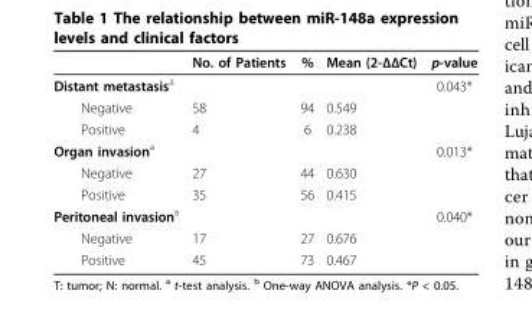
<table><thead><tr><td></td><td>No. of Patients</td><td>%</td><td>Mean (2-ΔΔCt)</td><td>p-value</td></tr></thead><tbody><tr><td>Distant metastasis<sup>a</sup></td><td></td><td></td><td></td><td>0.043*</td></tr><tr><td>Negative</td><td>58</td><td>94</td><td>0.549</td><td></td></tr><tr><td>Positive</td><td>4</td><td>6</td><td>0.238</td><td></td></tr><tr><td>Organ invasion<sup>a</sup></td><td></td><td></td><td></td><td>0.013*</td></tr><tr><td>Negative</td><td>27</td><td>44</td><td>0.630</td><td></td></tr><tr><td>Positive</td><td>35</td><td>56</td><td>0.415</td><td></td></tr><tr><td>Peritoneal invasion<sup>a</sup></td><td></td><td></td><td></td><td>0.040*</td></tr><tr><td>Negative</td><td>17</td><td>27</td><td>0.676</td><td></td></tr><tr><td>Positive</td><td>45</td><td>73</td><td>0.467</td><td></td></tr></tbody></table>